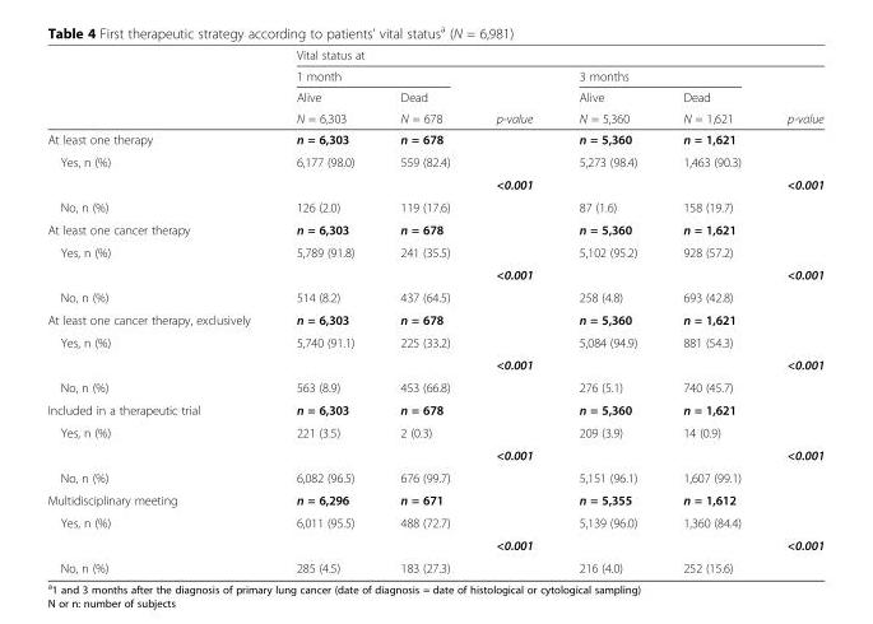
<table><thead><tr><td rowspan="4"></td><td colspan="6">Vital status at</td></tr><tr><td colspan="2">1 month</td><td rowspan="3">p-value</td><td colspan="2">3 months</td><td rowspan="3">p-value</td></tr><tr><td rowspan="2">Alive N = 6,303</td><td rowspan="2">Dead N = 678</td><td rowspan="2">Alive N = 5,360</td><td rowspan="2">Dead N = 1,621</td></tr><tr></tr></thead><tbody><tr><td>At least one therapy</td><td>n = 6,303</td><td>n = 678</td><td></td><td>n = 5,360</td><td>n = 1,621</td><td></td></tr><tr><td rowspan="2">Yes, n (%)</td><td>6,177 (98.0)</td><td>559 (82.4)</td><td></td><td>5,273 (98.4)</td><td>1,463 (90.3)</td><td></td></tr><tr><td></td><td></td><td>&lt;0.001</td><td></td><td></td><td>&lt;0.001</td></tr><tr><td>No, n (%)</td><td>126 (2.0)</td><td>119 (17.6)</td><td></td><td>87 (1.6)</td><td>158 (19.7)</td><td></td></tr><tr><td>At least one cancer therapy</td><td>n = 6,303</td><td>n = 678</td><td></td><td>n = 5,360</td><td>n = 1,621</td><td></td></tr><tr><td rowspan="2">Yes, n (%)</td><td>5,789 (91.8)</td><td>241 (35.5)</td><td></td><td>5,102 (95.2)</td><td>928 (57.2)</td><td></td></tr><tr><td></td><td></td><td>&lt;0.001</td><td></td><td></td><td>&lt;0.001</td></tr><tr><td>No, n (%)</td><td>514 (8.2)</td><td>437 (64.5)</td><td></td><td>258 (4.8)</td><td>693 (42.8)</td><td></td></tr><tr><td>At least one cancer therapy, exclusively</td><td>n = 6,303</td><td>n = 678</td><td></td><td>n = 5,360</td><td>n = 1,621</td><td></td></tr><tr><td rowspan="2">Yes, n (%)</td><td>5,740 (91.1)</td><td>225 (33.2)</td><td></td><td>5,084 (94.9)</td><td>881 (54.3)</td><td></td></tr><tr><td></td><td></td><td>&lt;0.001</td><td></td><td></td><td>&lt;0.001</td></tr><tr><td>No, n (%)</td><td>563 (8.9)</td><td>453 (66.8)</td><td></td><td>276 (5.1)</td><td>740 (45.7)</td><td></td></tr><tr><td>Included in a therapeutic trial</td><td>n = 6,303</td><td>n = 678</td><td></td><td>n = 5,360</td><td>n = 1,621</td><td></td></tr><tr><td rowspan="2">Yes, n (%)</td><td>221 (3.5)</td><td>2 (0.3)</td><td></td><td>209 (3.9)</td><td>14 (0.9)</td><td></td></tr><tr><td></td><td></td><td>&lt;0.001</td><td></td><td></td><td>&lt;0.001</td></tr><tr><td>No, n (%)</td><td>6,082 (96.5)</td><td>676 (99.7)</td><td></td><td>5,151 (96.1)</td><td>1,607 (99.1)</td><td></td></tr><tr><td>Multidisciplinary meeting</td><td>n = 6,296</td><td>n = 671</td><td></td><td>n = 5,355</td><td>n = 1,612</td><td></td></tr><tr><td rowspan="2">Yes, n (%)</td><td>6,011 (95.5)</td><td>488 (72.7)</td><td></td><td>5,139 (96.0)</td><td>1,360 (84.4)</td><td></td></tr><tr><td></td><td></td><td>&lt;0.001</td><td></td><td></td><td>&lt;0.001</td></tr><tr><td>No, n (%)</td><td>285 (4.5)</td><td>183 (27.3)</td><td></td><td>216 (4.0)</td><td>252 (15.6)</td><td></td></tr></tbody></table>